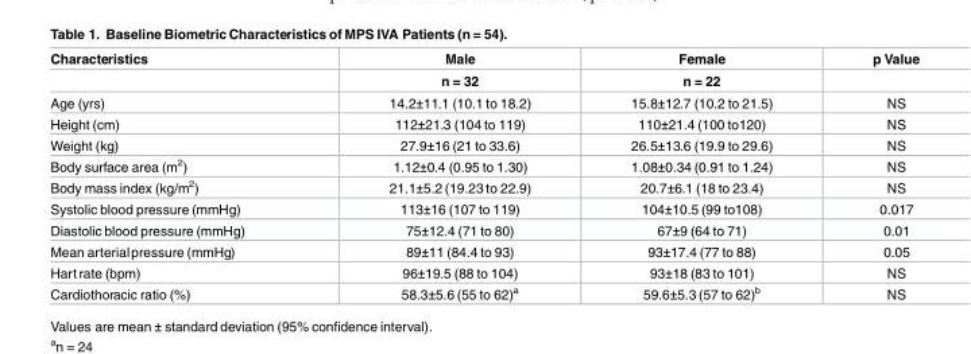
<table><thead><tr><td rowspan="2">Characteristics</td><td rowspan="2">Male n = 32</td><td rowspan="2">Female n = 22</td><td rowspan="2">p Value</td></tr><tr></tr></thead><tbody><tr><td>Age (yrs)</td><td>14.2±11.1 (10.1 to 18.2)</td><td>15.8±12.7 (10.2 to 21.5)</td><td>NS</td></tr><tr><td>Height (cm)</td><td>112±21.3 (104 to 119)</td><td>110±21.4 (100 to120)</td><td>NS</td></tr><tr><td>Weight (kg)</td><td>27.9±16 (21 to 33.6)</td><td>26.5±13.6 (19.9 to 29.6)</td><td>NS</td></tr><tr><td>Body surface area (m<sup>2</sup>)</td><td>1.12±0.4 (0.95 to 1.30)</td><td>1.08±0.34 (0.91 to 1.24)</td><td>NS</td></tr><tr><td>Body mass index (kg/m<sup>2</sup>)</td><td>21.1±5.2 (19.23 to 22.9)</td><td>20.7±6.1 (18 to 23.4)</td><td>NS</td></tr><tr><td>Systolic blood pressure (mmHg)</td><td>113±16 (107 to 119)</td><td>104±10.5 (99 to108)</td><td>0.017</td></tr><tr><td>Diastolic blood pressure (mmHg)</td><td>75±12.4 (71 to 80)</td><td>67±9 (64 to 71)</td><td>0.01</td></tr><tr><td>Mean arterialpressure (mmHg)</td><td>89±11 (84.4 to 93)</td><td>93±17.4 (77 to 88)</td><td>0.05</td></tr><tr><td>Hart rate (bpm)</td><td>96±19.5 (88 to 104)</td><td>93±18 (83 to 101)</td><td>NS</td></tr><tr><td>Cardiothoracic ratio (%)</td><td>58.3±5.6 (55 to 62)<sup>a</sup></td><td>59.6±5.3 (57 to 62)<sup>b</sup></td><td>NS</td></tr></tbody></table>